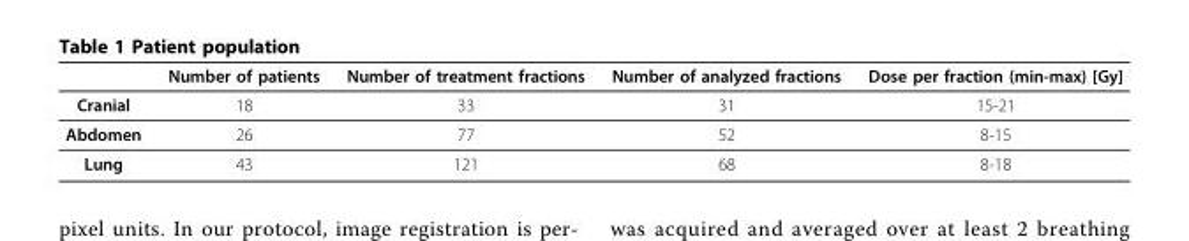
<table><thead><tr><td></td><td>Number of patients</td><td>Number of treatment fractions</td><td>Number of analyzed fractions</td><td>Dose per fraction (min-max) [Gy]</td></tr></thead><tbody><tr><td>Cranial</td><td>18</td><td>33</td><td>31</td><td>15-21</td></tr><tr><td>Abdomen</td><td>26</td><td>77</td><td>52</td><td>8-15</td></tr><tr><td>Lung</td><td>43</td><td>121</td><td>68</td><td>8-18</td></tr></tbody></table>